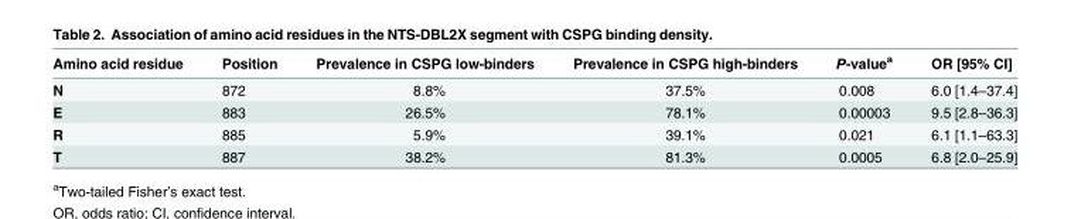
<table><thead><tr><td>Amino acid residue</td><td>Position</td><td>Prevalence in CSPG low-binders</td><td>Prevalence in CSPG high-binders</td><td>P-value<sup>a</sup></td><td>OR [95% CI]</td></tr></thead><tbody><tr><td>N</td><td>872</td><td>8.8%</td><td>37.5%</td><td>0.008</td><td>6.0 [1.4–37.4]</td></tr><tr><td>E</td><td>883</td><td>26.5%</td><td>78.1%</td><td>0.00003</td><td>9.5 [2.8–36.3]</td></tr><tr><td>R</td><td>885</td><td>5.9%</td><td>39.1%</td><td>0.021</td><td>6.1 [1.1–63.3]</td></tr><tr><td>T</td><td>887</td><td>38.2%</td><td>81.3%</td><td>0.0005</td><td>6.8 [2.0–25.9]</td></tr></tbody></table>